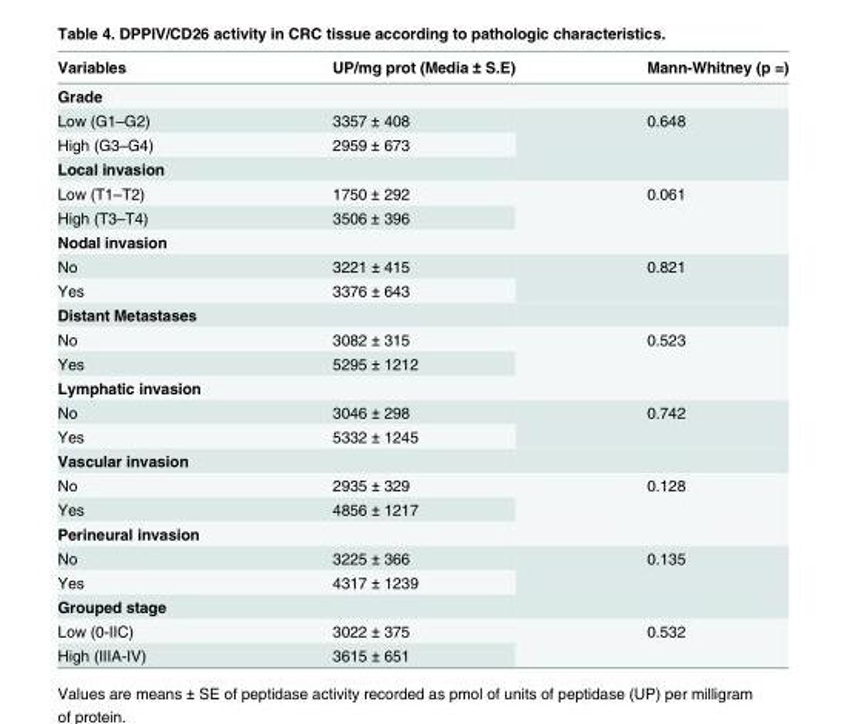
<table><thead><tr><td>Variables</td><td>UP/mg prot (Media ± S.E)</td><td>Mann-Whitney (p =)</td></tr></thead><tbody><tr><td colspan="3">Grade</td></tr><tr><td>Low (G1–G2)</td><td>3357 ± 408</td><td rowspan="2">0.648</td></tr><tr><td>High (G3–G4)</td><td>2959 ± 673</td></tr><tr><td colspan="3">Local invasion</td></tr><tr><td>Low (T1–T2)</td><td>1750 ± 292</td><td rowspan="2">0.061</td></tr><tr><td>High (T3–T4)</td><td>3506 ± 396</td></tr><tr><td colspan="3">Nodal invasion</td></tr><tr><td>No</td><td>3221 ± 415</td><td rowspan="2">0.821</td></tr><tr><td>Yes</td><td>3376 ± 643</td></tr><tr><td colspan="3">Distant Metastases</td></tr><tr><td>No</td><td>3082 ± 315</td><td rowspan="2">0.523</td></tr><tr><td>Yes</td><td>5295 ± 1212</td></tr><tr><td colspan="3">Lymphatic invasion</td></tr><tr><td>No</td><td>3046 ± 298</td><td rowspan="2">0.742</td></tr><tr><td>Yes</td><td>5332 ± 1245</td></tr><tr><td colspan="3">Vascular invasion</td></tr><tr><td>No</td><td>2935 ± 329</td><td rowspan="2">0.128</td></tr><tr><td>Yes</td><td>4856 ± 1217</td></tr><tr><td colspan="3">Perineural invasion</td></tr><tr><td>No</td><td>3225 ± 366</td><td rowspan="2">0.135</td></tr><tr><td>Yes</td><td>4317 ± 1239</td></tr><tr><td colspan="3">Grouped stage</td></tr><tr><td>Low (0-IIC)</td><td>3022 ± 375</td><td rowspan="2">0.532</td></tr><tr><td>High (IIIA-IV)</td><td>3615 ± 651</td></tr></tbody></table>